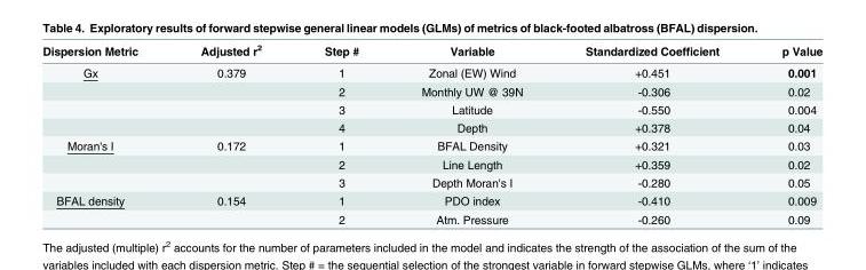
<table><thead><tr><td>Dispersion Metric</td><td>Adjusted r<sup>2</sup></td><td>Step #</td><td>Variable</td><td>Standardized Coefficient</td><td>p Value</td></tr></thead><tbody><tr><td rowspan="4">Gx</td><td>0.379</td><td>1</td><td>Zonal (EW) Wind</td><td>+0.451</td><td>0.001</td></tr><tr><td></td><td>2</td><td>Monthly UW @ 39N</td><td>-0.306</td><td>0.02</td></tr><tr><td></td><td>3</td><td>Latitude</td><td>-0.550</td><td>0.004</td></tr><tr><td></td><td>4</td><td>Depth</td><td>+0.378</td><td>0.04</td></tr><tr><td rowspan="3">Moran&#x27;s I</td><td>0.172</td><td>1</td><td>BFAL Density</td><td>+0.321</td><td>0.03</td></tr><tr><td></td><td>2</td><td>Line Length</td><td>+0.359</td><td>0.02</td></tr><tr><td></td><td>3</td><td>Depth Moran&#x27;s I</td><td>-0.280</td><td>0.05</td></tr><tr><td rowspan="2">BFAL density</td><td>0.154</td><td>1</td><td>PDO index</td><td>-0.410</td><td>0.009</td></tr><tr><td></td><td>2</td><td>Atm. Pressure</td><td>-0.260</td><td>0.09</td></tr></tbody></table>